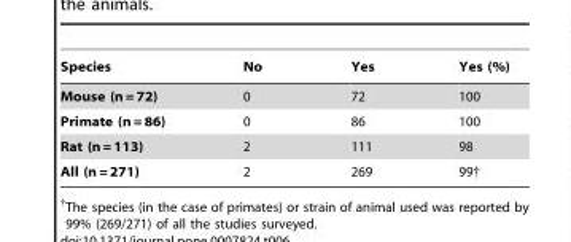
<table><thead><tr><td>Species</td><td>No</td><td>Yes</td><td>Yes (%)</td></tr></thead><tbody><tr><td>Mouse (n = 72)</td><td>0</td><td>72</td><td>100</td></tr><tr><td>Primate (n = 86)</td><td>0</td><td>86</td><td>100</td></tr><tr><td>Rat (n = 113)</td><td>2</td><td>111</td><td>98</td></tr><tr><td>All (n = 271)</td><td>2</td><td>269</td><td>99†</td></tr></tbody></table>